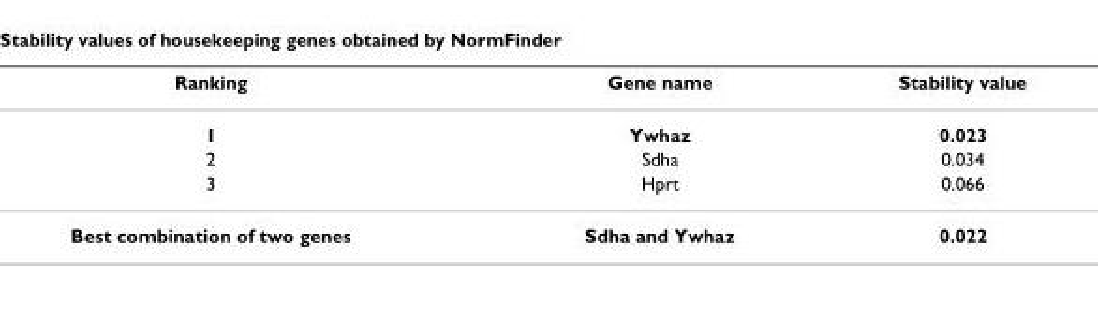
<table><thead><tr><td>Ranking</td><td>Gene name</td><td>Stability value</td></tr></thead><tbody><tr><td>1</td><td>Ywhaz</td><td>0.023</td></tr><tr><td>2</td><td>Sdha</td><td>0.034</td></tr><tr><td>3</td><td>Hprt</td><td>0.066</td></tr><tr><td>Best combination of two genes</td><td>Sdha and Ywhaz</td><td>0.022</td></tr></tbody></table>